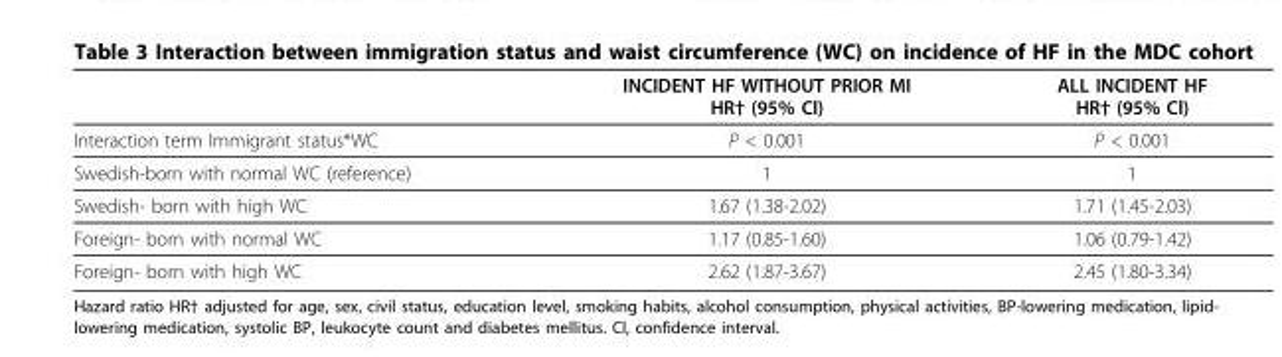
<table><thead><tr><td></td><td>INCIDENT HF WITHOUT PRIOR MI HR† (95% Cl)</td><td>ALL INCIDENT HF HR† (95% Cl)</td></tr></thead><tbody><tr><td>Interaction term Immigrant status*WC</td><td>P &lt; 0.001</td><td>P &lt; 0.001</td></tr><tr><td>Swedish-born with normal WC (reference)</td><td>1</td><td>1</td></tr><tr><td>Swedish- born with high WC</td><td>1.67 (1.38-2.02)</td><td>1.71 (1.45-2.03)</td></tr><tr><td>Foreign- born with normal WC</td><td>1.17 (0.85-1.60)</td><td>1.06 (0.79-1.42)</td></tr><tr><td>Foreign- born with high WC</td><td>2.62 (1.87-3.67)</td><td>2.45 (1.80-3.34)</td></tr></tbody></table>